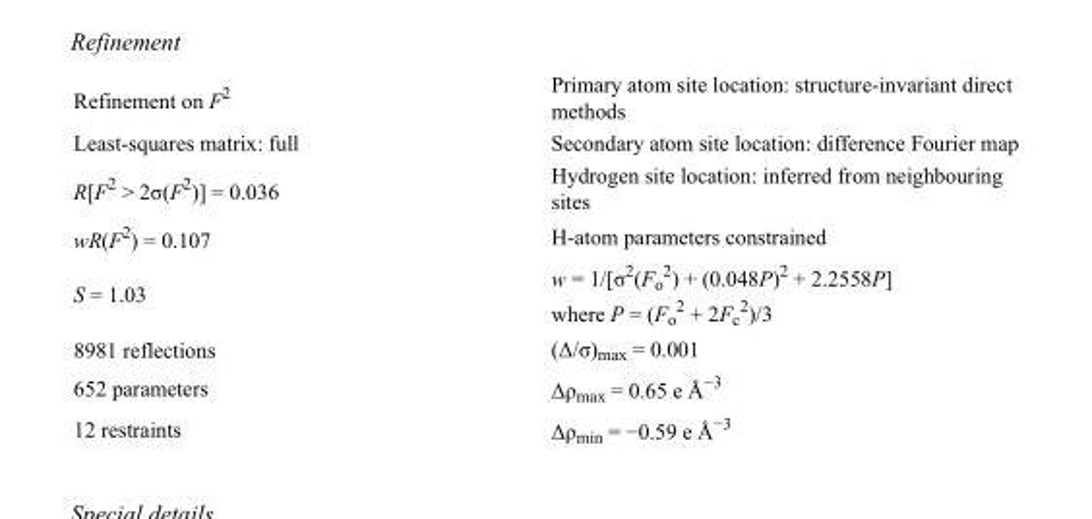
<table><tbody><tr><td>Refinement on F<sup>2</sup></td><td>Primary atom site location: structure-invariant direct methods</td></tr><tr><td>Least-squares matrix: full</td><td>Secondary atom site location: difference Fourier map</td></tr><tr><td>R[F<sup>2</sup> &gt; 2σ(F<sup>2</sup>)] = 0.036</td><td>Hydrogen site location: inferred from neighbouring sites</td></tr><tr><td>wR(F<sup>2</sup>) = 0.107</td><td>H-atom parameters constrained</td></tr><tr><td>S = 1.03</td><td>w = 1/[σ<sup>2</sup>(F<sub>o</sub> <sup>2</sup>) + (0.048P)<sup>2</sup> + 2.2558P] where P = (F<sub>o</sub> <sup>2</sup> + 2F<sub>c</sub> <sup>2</sup>)/3</td></tr><tr><td>8981 reflections</td><td>(Δ/σ)<sub>max</sub> = 0.001</td></tr><tr><td>652 parameters</td><td>Δρ<sub>max</sub> = 0.65 e Å<sup>−3</sup></td></tr><tr><td>12 restraints</td><td>Δρ<sub>min</sub> = −0.59 e Å<sup>−3</sup></td></tr></tbody></table>